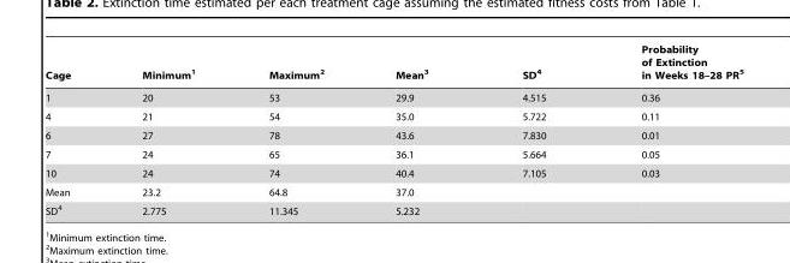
<table><thead><tr><td>Cage</td><td>Minimum<sup>1</sup></td><td>Maximum<sup>2</sup></td><td>Mean<sup>3</sup></td><td>SD<sup>4</sup></td><td>Probability of Extinction in Weeks 18–28 PR<sup>5</sup></td></tr></thead><tbody><tr><td>1</td><td>20</td><td>53</td><td>29.9</td><td>4.515</td><td>0.36</td></tr><tr><td>4</td><td>21</td><td>54</td><td>35.0</td><td>5.722</td><td>0.11</td></tr><tr><td>6</td><td>27</td><td>78</td><td>43.6</td><td>7.830</td><td>0.01</td></tr><tr><td>7</td><td>24</td><td>65</td><td>36.1</td><td>5.664</td><td>0.05</td></tr><tr><td>10</td><td>24</td><td>74</td><td>40.4</td><td>7.105</td><td>0.03</td></tr><tr><td>Mean</td><td>23.2</td><td>64.8</td><td>37.0</td><td></td><td></td></tr><tr><td>SD<sup>4</sup></td><td>2.775</td><td>11.345</td><td>5.232</td><td></td><td></td></tr></tbody></table>